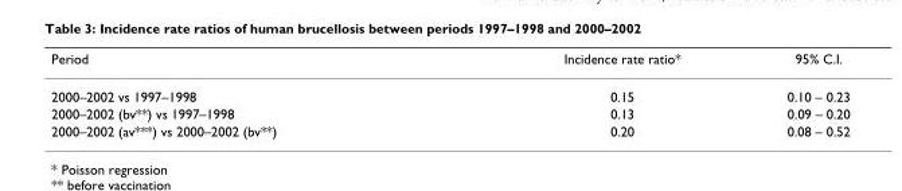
<table><thead><tr><td>Period</td><td>Incidence rate ratio*</td><td>95% C.I.</td></tr></thead><tbody><tr><td>2000–2002 vs 1997–1998</td><td>0.15</td><td>0.10 – 0.23</td></tr><tr><td>2000–2002 (bv**) vs 1997–1998</td><td>0.13</td><td>0.09 – 0.20</td></tr><tr><td>2000–2002 (av***) vs 2000–2002 (bv**)</td><td>0.20</td><td>0.08 – 0.52</td></tr></tbody></table>